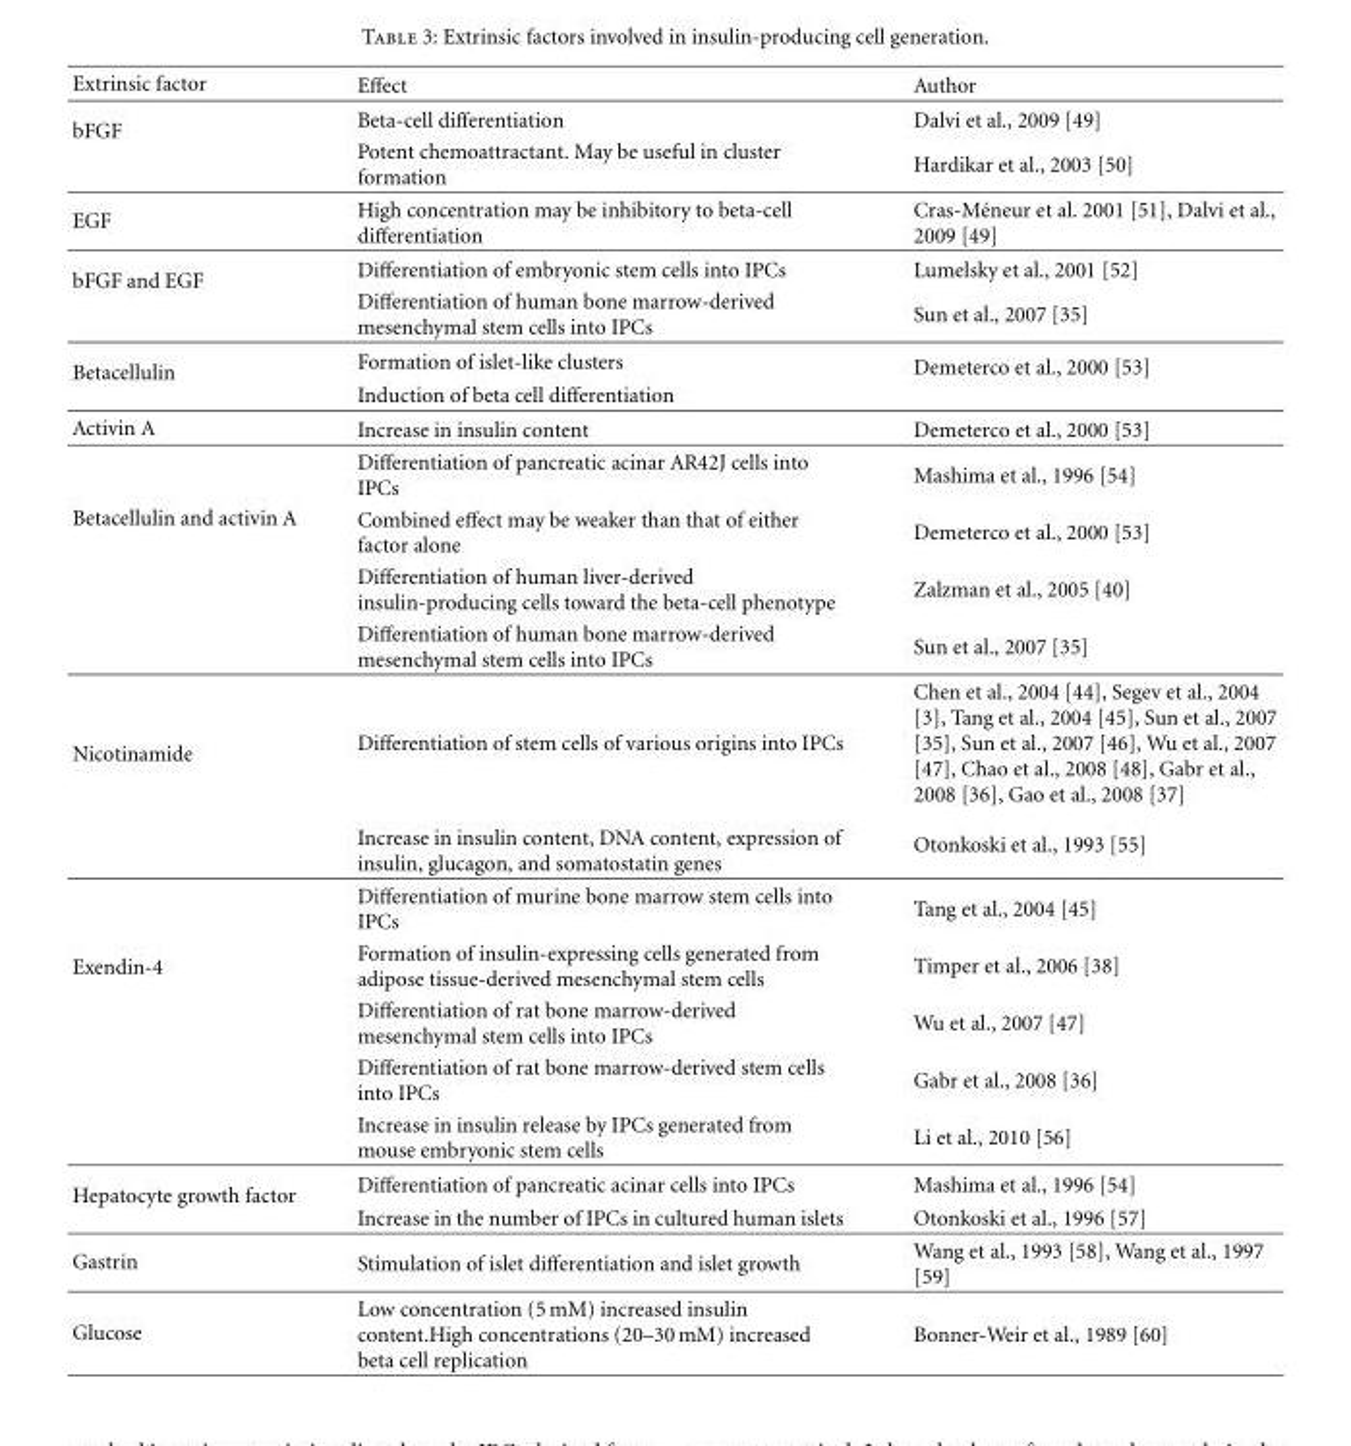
<table><thead><tr><td>Extrinsic factor</td><td>Effect</td><td>Author</td></tr></thead><tbody><tr><td rowspan="2">bFGF</td><td>Beta-cell differentiation</td><td>Dalvi et al., 2009 [49]</td></tr><tr><td>Potent chemoattractant. May be useful in cluster formation</td><td>Hardikar et al., 2003 [50]</td></tr><tr><td>EGF</td><td>High concentration may be inhibitory to beta-cell differentiation</td><td>Cras-M´eneur et al. 2001 [51], Dalvi et al., 2009 [49]</td></tr><tr><td rowspan="2">bFGF and EGF</td><td>Differentiation of embryonic stem cells into IPCs</td><td>Lumelsky et al., 2001 [52]</td></tr><tr><td>Differentiation of human bone marrow-derived mesenchymal stem cells into IPCs</td><td>Sun et al., 2007 [35]</td></tr><tr><td rowspan="2">Betacellulin</td><td>Formation of islet-like clusters</td><td rowspan="2">Demeterco et al., 2000 [53]</td></tr><tr><td>Induction of beta cell differentiation</td></tr><tr><td>Activin A</td><td>Increase in insulin content</td><td>Demeterco et al., 2000 [53]</td></tr><tr><td rowspan="4">Betacellulin and activin A</td><td>Differentiation of pancreatic acinar AR42J cells into IPCs</td><td>Mashima et al., 1996 [54]</td></tr><tr><td>Combined effect may be weaker than that of either factor alone</td><td>Demeterco et al., 2000 [53]</td></tr><tr><td>Differentiation of human liver-derived insulin-producing cells toward the beta-cell phenotype</td><td>Zalzman et al., 2005 [40]</td></tr><tr><td>Differentiation of human bone marrow-derived mesenchymal stem cells into IPCs</td><td>Sun et al., 2007 [35]</td></tr><tr><td rowspan="2">Nicotinamide</td><td>Differentiation of stem cells of various origins into IPCs</td><td>Chen et al., 2004 [44], Segev et al., 2004 [3], Tang et al., 2004 [45], Sun et al., 2007 [35], Sun et al., 2007 [46], Wu et al., 2007 [47], Chao et al., 2008 [48], Gabr et al., 2008 [36], Gao et al., 2008 [37]</td></tr><tr><td>Increase in insulin content, DNA content, expression of insulin, glucagon, and somatostatin genes</td><td>Otonkoski et al., 1993 [55]</td></tr><tr><td rowspan="5">Exendin-4</td><td>Differentiation of murine bone marrow stem cells into IPCs</td><td>Tang et al., 2004 [45]</td></tr><tr><td>Formation of insulin-expressing cells generated from adipose tissue-derived mesenchymal stem cells</td><td>Timper et al., 2006 [38]</td></tr><tr><td>Differentiation of rat bone marrow-derived mesenchymal stem cells into IPCs</td><td>Wu et al., 2007 [47]</td></tr><tr><td>Differentiation of rat bone marrow-derived stem cells into IPCs</td><td>Gabr et al., 2008 [36]</td></tr><tr><td>Increase in insulin release by IPCs generated from mouse embryonic stem cells</td><td>Li et al., 2010 [56]</td></tr><tr><td rowspan="2">Hepatocyte growth factor</td><td>Differentiation of pancreatic acinar cells into IPCs</td><td>Mashima et al., 1996 [54]</td></tr><tr><td>Increase in the number of IPCs in cultured human islets</td><td>Otonkoski et al., 1996 [57]</td></tr><tr><td>Gastrin</td><td>Stimulation of islet differentiation and islet growth</td><td>Wang et al., 1993 [58], Wang et al., 1997 [59]</td></tr><tr><td>Glucose</td><td>Low concentration (5 mM) increased insulin content.High concentrations (20–30 mM) increased beta cell replication</td><td>Bonner-Weir et al., 1989 [60]</td></tr></tbody></table>